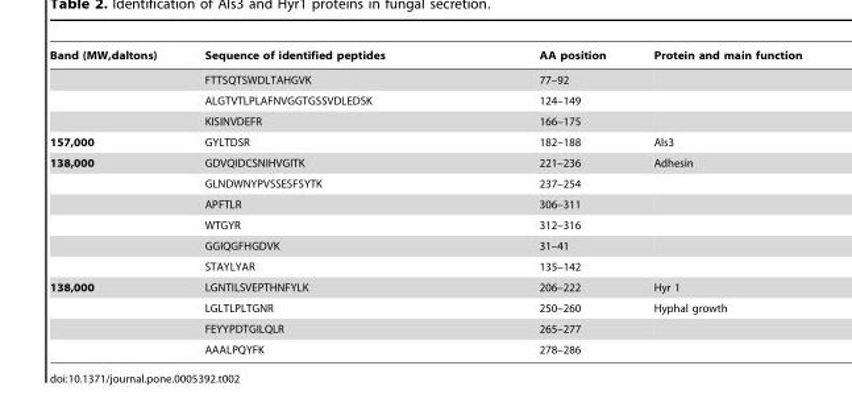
<table><thead><tr><td>Band (MW,daltons)</td><td>Sequence of identified peptides</td><td>AA position</td><td>Protein and main function</td></tr></thead><tbody><tr><td></td><td>FTTSQTSWDLTAHGVK</td><td>77–92</td><td></td></tr><tr><td></td><td>ALGTVTLPLAFNVGGTGSSVDLEDSK</td><td>124–149</td><td></td></tr><tr><td></td><td>KISINVDEFR</td><td>166–175</td><td></td></tr><tr><td>157,000</td><td>GYLTDSR</td><td>182–188</td><td>Als3</td></tr><tr><td rowspan="6">138,000</td><td>GDVQIDCSNIHVGITK</td><td>221–236</td><td>Adhesin</td></tr><tr><td>GLNDWNYPVSSESFSYTK</td><td>237–254</td><td></td></tr><tr><td>APFTLR</td><td>306–311</td><td></td></tr><tr><td>WTGYR</td><td>312–316</td><td></td></tr><tr><td>GGIQGFHGDVK</td><td>31–41</td><td></td></tr><tr><td>STAYLYAR</td><td>135–142</td><td></td></tr><tr><td rowspan="4">138,000</td><td>LGNTILSVEPTHNFYLK</td><td>206–222</td><td>Hyr 1</td></tr><tr><td>LGLTLPLTGNR</td><td>250–260</td><td>Hyphal growth</td></tr><tr><td>FEYYPDTGILQLR</td><td>265–277</td><td></td></tr><tr><td>AAALPQYFK</td><td>278–286</td><td></td></tr></tbody></table>